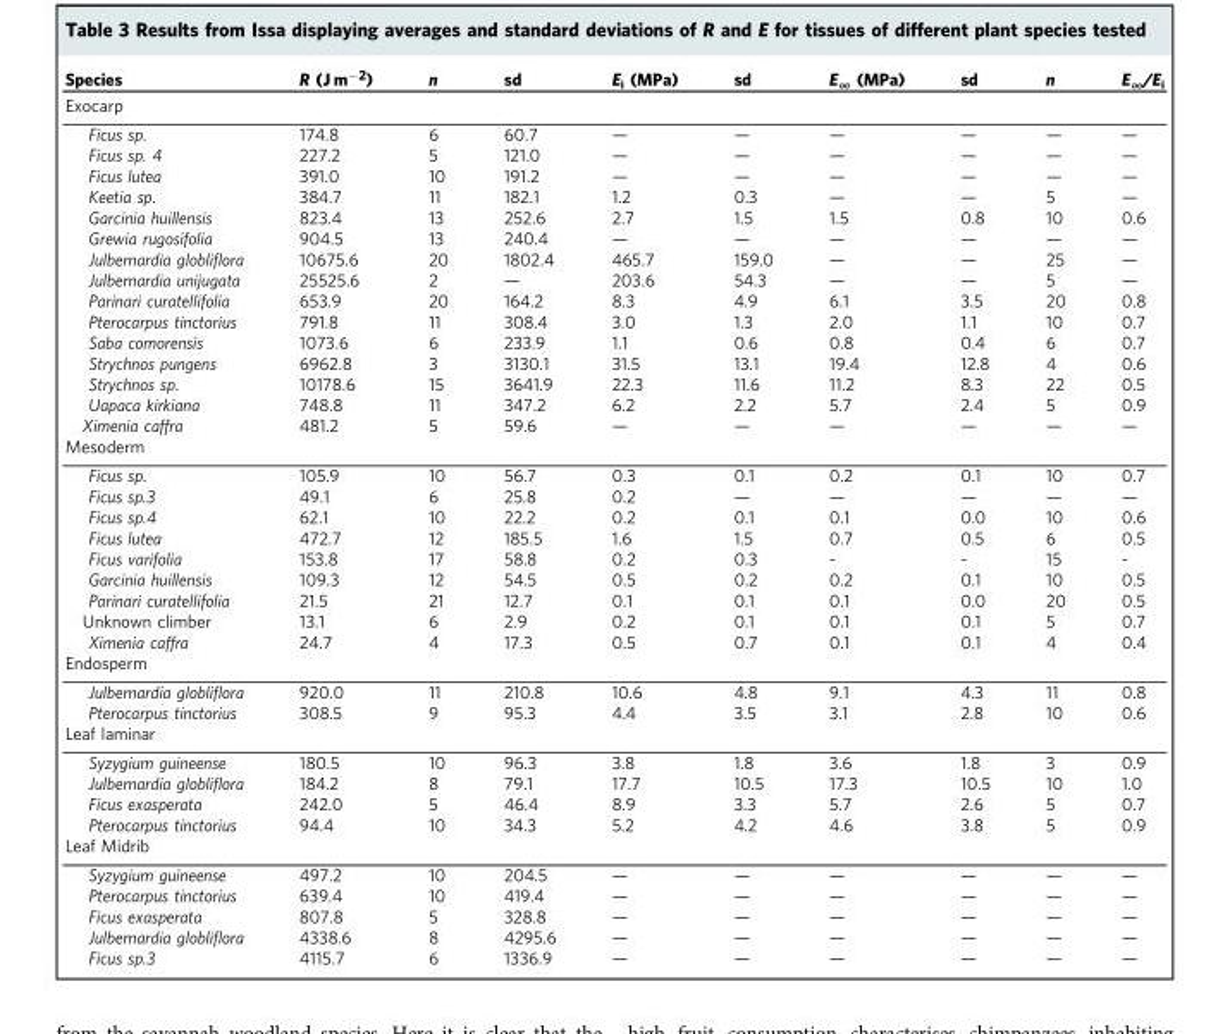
<table><thead><tr><td>Species</td><td>R (J m<sup>−2</sup>)</td><td>n</td><td>sd</td><td>E<sub>i</sub> (MPa)</td><td>sd</td><td>E<sub>∞</sub> (MPa)</td><td>sd</td><td>n</td><td>E<sub>∞</sub>/E<sub>i</sub></td></tr></thead><tbody><tr><td colspan="10">Exocarp</td></tr><tr><td>Ficus sp.</td><td>174.8</td><td>6</td><td>60.7</td><td>—</td><td>—</td><td>—</td><td>—</td><td>—</td><td>—</td></tr><tr><td>Ficus sp. 4</td><td>227.2</td><td>5</td><td>121.0</td><td>—</td><td>—</td><td>—</td><td>—</td><td>—</td><td>—</td></tr><tr><td>Ficus lutea</td><td>391.0</td><td>10</td><td>191.2</td><td>—</td><td>—</td><td>—</td><td>—</td><td>—</td><td>—</td></tr><tr><td>Keetia sp.</td><td>384.7</td><td>11</td><td>182.1</td><td>1.2</td><td>0.3</td><td>—</td><td>—</td><td>5</td><td>—</td></tr><tr><td>Garcinia huillensis</td><td>823.4</td><td>13</td><td>252.6</td><td>2.7</td><td>1.5</td><td>1.5</td><td>0.8</td><td>10</td><td>0.6</td></tr><tr><td>Grewia rugosifolia</td><td>904.5</td><td>13</td><td>240.4</td><td>—</td><td>—</td><td>—</td><td>—</td><td>—</td><td>—</td></tr><tr><td>Julbernardia globliflora</td><td>10675.6</td><td>20</td><td>1802.4</td><td>465.7</td><td>159.0</td><td>—</td><td>—</td><td>25</td><td>—</td></tr><tr><td>Julbernardia unijugata</td><td>25525.6</td><td>2</td><td>—</td><td>203.6</td><td>54.3</td><td>—</td><td>—</td><td>5</td><td>—</td></tr><tr><td>Parinari curatellifolia</td><td>653.9</td><td>20</td><td>164.2</td><td>8.3</td><td>4.9</td><td>6.1</td><td>3.5</td><td>20</td><td>0.8</td></tr><tr><td>Pterocarpus tinctorius</td><td>791.8</td><td>11</td><td>308.4</td><td>3.0</td><td>1.3</td><td>2.0</td><td>1.1</td><td>10</td><td>0.7</td></tr><tr><td>Saba comorensis</td><td>1073.6</td><td>6</td><td>233.9</td><td>1.1</td><td>0.6</td><td>0.8</td><td>0.4</td><td>6</td><td>0.7</td></tr><tr><td>Strychnos pungens</td><td>6962.8</td><td>3</td><td>3130.1</td><td>31.5</td><td>13.1</td><td>19.4</td><td>12.8</td><td>4</td><td>0.6</td></tr><tr><td>Strychnos sp.</td><td>10178.6</td><td>15</td><td>3641.9</td><td>22.3</td><td>11.6</td><td>11.2</td><td>8.3</td><td>22</td><td>0.5</td></tr><tr><td>Uapaca kirkiana</td><td>748.8</td><td>11</td><td>347.2</td><td>6.2</td><td>2.2</td><td>5.7</td><td>2.4</td><td>5</td><td>0.9</td></tr><tr><td>Ximenia caffra</td><td>481.2</td><td>5</td><td>59.6</td><td>—</td><td>—</td><td>—</td><td>—</td><td>—</td><td>—</td></tr><tr><td colspan="10">Mesoderm</td></tr><tr><td>Ficus sp.</td><td>105.9</td><td>10</td><td>56.7</td><td>0.3</td><td>0.1</td><td>0.2</td><td>0.1</td><td>10</td><td>0.7</td></tr><tr><td>Ficus sp.3</td><td>49.1</td><td>6</td><td>25.8</td><td>0.2</td><td>—</td><td>—</td><td>—</td><td>—</td><td>—</td></tr><tr><td>Ficus sp.4</td><td>62.1</td><td>10</td><td>22.2</td><td>0.2</td><td>0.1</td><td>0.1</td><td>0.0</td><td>10</td><td>0.6</td></tr><tr><td>Ficus lutea</td><td>472.7</td><td>12</td><td>185.5</td><td>1.6</td><td>1.5</td><td>0.7</td><td>0.5</td><td>6</td><td>0.5</td></tr><tr><td>Ficus varifolia</td><td>153.8</td><td>17</td><td>58.8</td><td>0.2</td><td>0.3</td><td>-</td><td>-</td><td>15</td><td>-</td></tr><tr><td>Garcinia huillensis</td><td>109.3</td><td>12</td><td>54.5</td><td>0.5</td><td>0.2</td><td>0.2</td><td>0.1</td><td>10</td><td>0.5</td></tr><tr><td>Parinari curatellifolia</td><td>21.5</td><td>21</td><td>12.7</td><td>0.1</td><td>0.1</td><td>0.1</td><td>0.0</td><td>20</td><td>0.5</td></tr><tr><td>Unknown climber</td><td>13.1</td><td>6</td><td>2.9</td><td>0.2</td><td>0.1</td><td>0.1</td><td>0.1</td><td>5</td><td>0.7</td></tr><tr><td>Ximenia caffra</td><td>24.7</td><td>4</td><td>17.3</td><td>0.5</td><td>0.7</td><td>0.1</td><td>0.1</td><td>4</td><td>0.4</td></tr><tr><td colspan="10">Endosperm</td></tr><tr><td>Julbernardia globliflora</td><td>920.0</td><td>11</td><td>210.8</td><td>10.6</td><td>4.8</td><td>9.1</td><td>4.3</td><td>11</td><td>0.8</td></tr><tr><td>Pterocarpus tinctorius</td><td>308.5</td><td>9</td><td>95.3</td><td>4.4</td><td>3.5</td><td>3.1</td><td>2.8</td><td>10</td><td>0.6</td></tr><tr><td colspan="10">Leaf laminar</td></tr><tr><td>Syzygium guineense</td><td>180.5</td><td>10</td><td>96.3</td><td>3.8</td><td>1.8</td><td>3.6</td><td>1.8</td><td>3</td><td>0.9</td></tr><tr><td>Julbernardia globliflora</td><td>184.2</td><td>8</td><td>79.1</td><td>17.7</td><td>10.5</td><td>17.3</td><td>10.5</td><td>10</td><td>1.0</td></tr><tr><td>Ficus exasperata</td><td>242.0</td><td>5</td><td>46.4</td><td>8.9</td><td>3.3</td><td>5.7</td><td>2.6</td><td>5</td><td>0.7</td></tr><tr><td>Pterocarpus tinctorius</td><td>94.4</td><td>10</td><td>34.3</td><td>5.2</td><td>4.2</td><td>4.6</td><td>3.8</td><td>5</td><td>0.9</td></tr><tr><td colspan="10">Leaf Midrib</td></tr><tr><td>Syzygium guineense</td><td>497.2</td><td>10</td><td>204.5</td><td>—</td><td>—</td><td>—</td><td>—</td><td>—</td><td>—</td></tr><tr><td>Pterocarpus tinctorius</td><td>639.4</td><td>10</td><td>419.4</td><td>—</td><td>—</td><td>—</td><td>—</td><td>—</td><td>—</td></tr><tr><td>Ficus exasperata</td><td>807.8</td><td>5</td><td>328.8</td><td>—</td><td>—</td><td>—</td><td>—</td><td>—</td><td>—</td></tr><tr><td>Julbernardia globliflora</td><td>4338.6</td><td>8</td><td>4295.6</td><td>—</td><td>—</td><td>—</td><td>—</td><td>—</td><td>—</td></tr><tr><td>Ficus sp.3</td><td>4115.7</td><td>6</td><td>1336.9</td><td>—</td><td>—</td><td>—</td><td>—</td><td>—</td><td>—</td></tr></tbody></table>